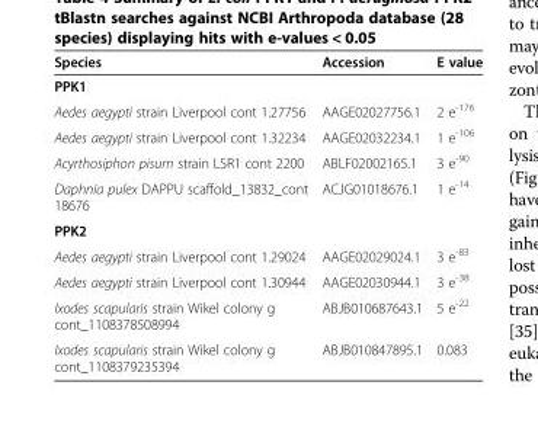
<table><thead><tr><td>Species</td><td>Accession</td><td>E value</td></tr></thead><tbody><tr><td colspan="3">PPK1</td></tr><tr><td>Aedes aegypti strain Liverpool cont 1.27756</td><td>AAGE02027756.1</td><td>2 e<sup>-176</sup></td></tr><tr><td>Aedes aegypti strain Liverpool cont 1.32234</td><td>AAGE02032234.1</td><td>1 e<sup>-106</sup></td></tr><tr><td>Acyrthosiphon pisum strain LSR1 cont 2200</td><td>ABLF02002165.1</td><td>3 e<sup>-90</sup></td></tr><tr><td>Daphnia pulex DAPPU scaffold_13832_cont 18676</td><td>ACJG01018676.1</td><td>1 e<sup>-14</sup></td></tr><tr><td colspan="3">PPK2</td></tr><tr><td>Aedes aegypti strain Liverpool cont 1.29024</td><td>AAGE02029024.1</td><td>3 e<sup>-83</sup></td></tr><tr><td>Aedes aegypti strain Liverpool cont 1.30944</td><td>AAGE02030944.1</td><td>3 e<sup>-38</sup></td></tr><tr><td>Ixodes scapularis strain Wikel colony g cont_1108378508994</td><td>ABJB010687643.1</td><td>5 e<sup>-22</sup></td></tr><tr><td>Ixodes scapularis strain Wikel colony g cont_1108379235394</td><td>ABJB010847895.1</td><td>0.083</td></tr></tbody></table>